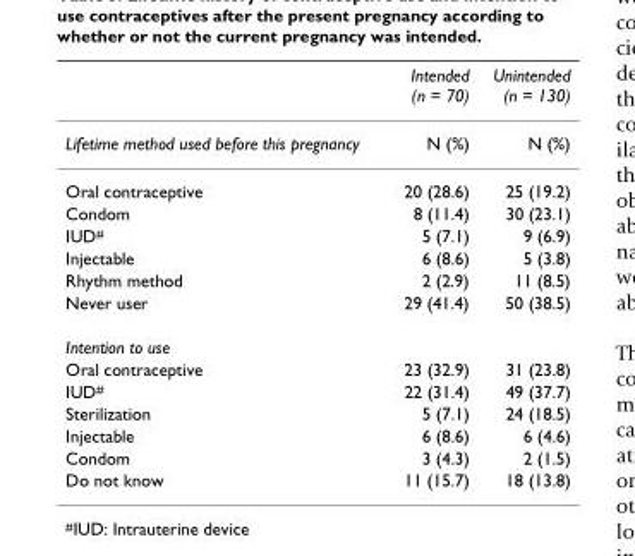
<table><thead><tr><td></td><td>Intended (n = 70)</td><td>Unintended (n = 130)</td></tr></thead><tbody><tr><td>Lifetime method used before this pregnancy</td><td>N (%)</td><td>N (%)</td></tr><tr><td>Oral contraceptive</td><td>20 (28.6)</td><td>25 (19.2)</td></tr><tr><td>Condom</td><td>8 (11.4)</td><td>30 (23.1)</td></tr><tr><td>IUD<sup>#</sup></td><td>5 (7.1)</td><td>9 (6.9)</td></tr><tr><td>Injectable</td><td>6 (8.6)</td><td>5 (3.8)</td></tr><tr><td>Rhythm method</td><td>2 (2.9)</td><td>11 (8.5)</td></tr><tr><td>Never user</td><td>29 (41.4)</td><td>50 (38.5)</td></tr><tr><td colspan="3">Intention to use</td></tr><tr><td>Oral contraceptive</td><td>23 (32.9)</td><td>31 (23.8)</td></tr><tr><td>IUD<sup>#</sup></td><td>22 (31.4)</td><td>49 (37.7)</td></tr><tr><td>Sterilization</td><td>5 (7.1)</td><td>24 (18.5)</td></tr><tr><td>Injectable</td><td>6 (8.6)</td><td>6 (4.6)</td></tr><tr><td>Condom</td><td>3 (4.3)</td><td>2 (1.5)</td></tr><tr><td>Do not know</td><td>11 (15.7)</td><td>18 (13.8)</td></tr></tbody></table>